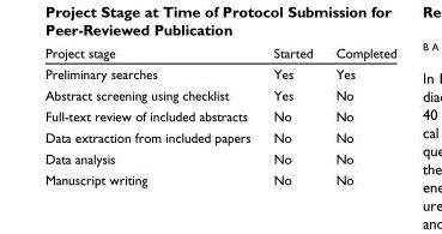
<table><thead><tr><td>Project stage</td><td>Started</td><td>Completed</td></tr></thead><tbody><tr><td>Preliminary searches</td><td>Yes</td><td>Yes</td></tr><tr><td>Abstract screening using checklist</td><td>Yes</td><td>No</td></tr><tr><td>Full-text review of included abstracts</td><td>No</td><td>No</td></tr><tr><td>Data extraction from included papers</td><td>No</td><td>No</td></tr><tr><td>Data analysis</td><td>No</td><td>No</td></tr><tr><td>Manuscript writing</td><td>No</td><td>No</td></tr></tbody></table>